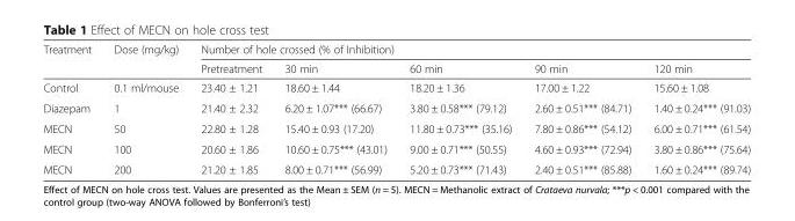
<table><thead><tr><td rowspan="2">Treatment</td><td rowspan="2">Dose (mg/kg)</td><td colspan="5">Number of hole crossed (% of Inhibition)</td></tr><tr><td>Pretreatment</td><td>30 min</td><td>60 min</td><td>90 min</td><td>120 min</td></tr></thead><tbody><tr><td>Control</td><td>0.1 ml/mouse</td><td>23.40 ± 1.21</td><td>18.60 ± 1.44</td><td>18.20 ± 1.36</td><td>17.00 ± 1.22</td><td>15.60 ± 1.08</td></tr><tr><td>Diazepam</td><td>1</td><td>21.40 ± 2.32</td><td>6.20 ± 1.07*** (66.67)</td><td>3.80 ± 0.58*** (79.12)</td><td>2.60 ± 0.51*** (84.71)</td><td>1.40 ± 0.24*** (91.03)</td></tr><tr><td>MECN</td><td>50</td><td>22.80 ± 1.28</td><td>15.40 ± 0.93 (17.20)</td><td>11.80 ± 0.73*** (35.16)</td><td>7.80 ± 0.86*** (54.12)</td><td>6.00 ± 0.71*** (61.54)</td></tr><tr><td>MECN</td><td>100</td><td>20.60 ± 1.86</td><td>10.60 ± 0.75*** (43.01)</td><td>9.00 ± 0.71*** (50.55)</td><td>4.60 ± 0.93*** (72.94)</td><td>3.80 ± 0.86*** (75.64)</td></tr><tr><td>MECN</td><td>200</td><td>21.20 ± 1.85</td><td>8.00 ± 0.71*** (56.99)</td><td>5.20 ± 0.73*** (71.43)</td><td>2.40 ± 0.51*** (85.88)</td><td>1.60 ± 0.24*** (89.74)</td></tr></tbody></table>